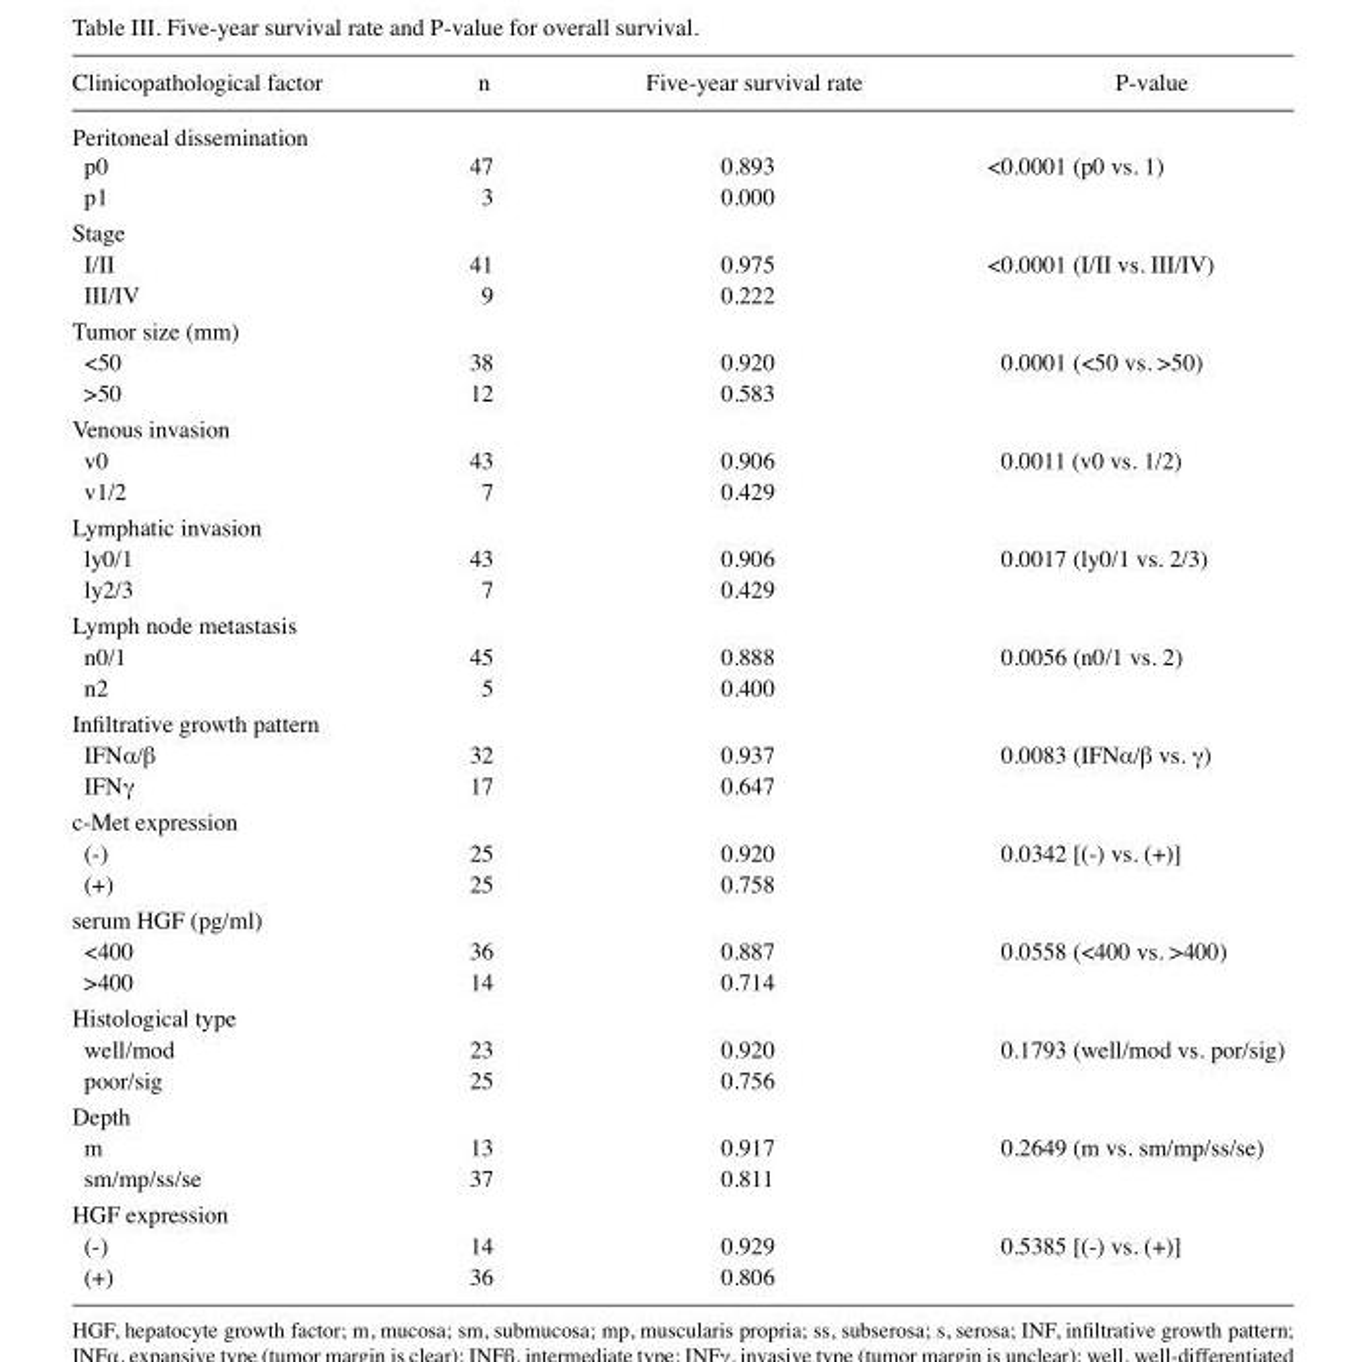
<table><thead><tr><td>Clinicopathological factor</td><td>n</td><td>Five-year survival rate</td><td>P‑value</td></tr></thead><tbody><tr><td colspan="4">Peritoneal dissemination</td></tr><tr><td>p0</td><td>47</td><td>0.893</td><td>&lt;0.0001 (p0 vs. 1)</td></tr><tr><td>p1</td><td>3</td><td>0.000</td><td></td></tr><tr><td colspan="4">Stage</td></tr><tr><td>Ⅰ/Ⅱ</td><td>41</td><td>0.975</td><td>&lt;0.0001 (Ⅰ/Ⅱ vs. Ⅲ/Ⅳ)</td></tr><tr><td>Ⅲ/Ⅳ</td><td>9</td><td>0.222</td><td></td></tr><tr><td colspan="4">Tumor size (mm)</td></tr><tr><td>&lt;50</td><td>38</td><td>0.920</td><td>0.0001 (&lt;50 vs. &gt;50)</td></tr><tr><td>&gt;50</td><td>12</td><td>0.583</td><td></td></tr><tr><td colspan="4">Venous invasion</td></tr><tr><td>v0</td><td>43</td><td>0.906</td><td>0.0011 (v0 vs. 1/2)</td></tr><tr><td>v1/2</td><td>7</td><td>0.429</td><td></td></tr><tr><td colspan="4">Lymphatic invasion</td></tr><tr><td>ly0/1</td><td>43</td><td>0.906</td><td>0.0017 (ly0/1 vs. 2/3)</td></tr><tr><td>ly2/3</td><td>7</td><td>0.429</td><td></td></tr><tr><td colspan="4">Lymph node metastasis</td></tr><tr><td>n0/1</td><td>45</td><td>0.888</td><td>0.0056 (n0/1 vs. 2)</td></tr><tr><td>n2</td><td>5</td><td>0.400</td><td></td></tr><tr><td colspan="4">Infiltrative growth pattern</td></tr><tr><td>IFNα/β</td><td>32</td><td>0.937</td><td>0.0083 (IFNα/β vs. γ)</td></tr><tr><td>IFNγ</td><td>17</td><td>0.647</td><td></td></tr><tr><td colspan="4">c-Met expression</td></tr><tr><td>(-)</td><td>25</td><td>0.920</td><td>0.0342 [(-) vs. (+)]</td></tr><tr><td>(+)</td><td>25</td><td>0.758</td><td></td></tr><tr><td colspan="4">serum HGF (pg/ml)</td></tr><tr><td>&lt;400</td><td>36</td><td>0.887</td><td>0.0558 (&lt;400 vs. &gt;400)</td></tr><tr><td>&gt;400</td><td>14</td><td>0.714</td><td></td></tr><tr><td colspan="4">Histological type</td></tr><tr><td>well/mod</td><td>23</td><td>0.920</td><td>0.1793 (well/mod vs. por/sig)</td></tr><tr><td>poor/sig</td><td>25</td><td>0.756</td><td></td></tr><tr><td colspan="4">Depth</td></tr><tr><td>m</td><td>13</td><td>0.917</td><td>0.2649 (m vs. sm/mp/ss/se)</td></tr><tr><td>sm/mp/ss/se</td><td>37</td><td>0.811</td><td></td></tr><tr><td colspan="4">HGF expression</td></tr><tr><td>(-)</td><td>14</td><td>0.929</td><td>0.5385 [(-) vs. (+)]</td></tr><tr><td>(+)</td><td>36</td><td>0.806</td><td></td></tr></tbody></table>